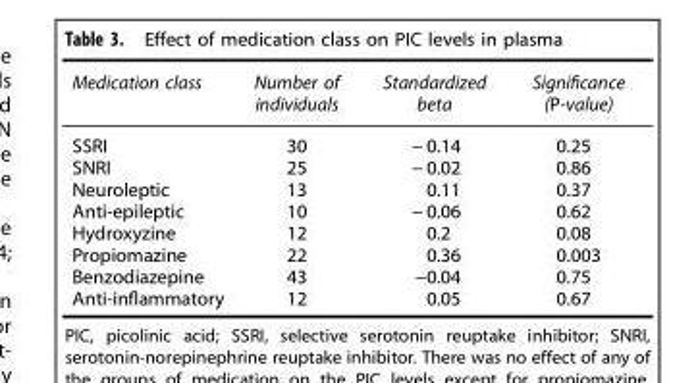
<table><thead><tr><td>Medication class</td><td>Number of individuals</td><td>Standardized beta</td><td>Significance (P-value)</td></tr></thead><tbody><tr><td>SSRI</td><td>30</td><td>− 0.14</td><td>0.25</td></tr><tr><td>SNRI</td><td>25</td><td>− 0.02</td><td>0.86</td></tr><tr><td>Neuroleptic</td><td>13</td><td>0.11</td><td>0.37</td></tr><tr><td>Anti-epileptic</td><td>10</td><td>− 0.06</td><td>0.62</td></tr><tr><td>Hydroxyzine</td><td>12</td><td>0.2</td><td>0.08</td></tr><tr><td>Propiomazine</td><td>22</td><td>0.36</td><td>0.003</td></tr><tr><td>Benzodiazepine</td><td>43</td><td>−0.04</td><td>0.75</td></tr><tr><td>Anti-inflammatory</td><td>12</td><td>0.05</td><td>0.67</td></tr></tbody></table>